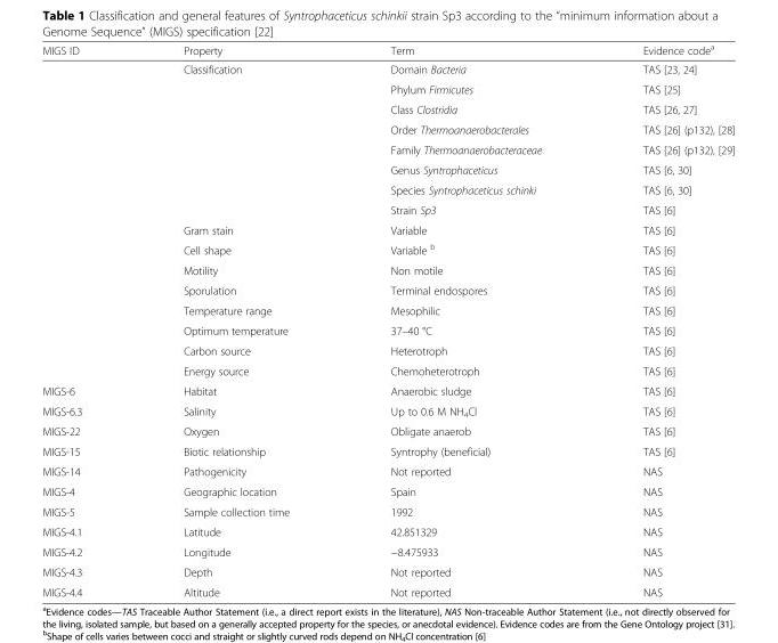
<table><thead><tr><td>MIGS ID</td><td>Property</td><td>Term</td><td>Evidence code<sup>a</sup></td></tr></thead><tbody><tr><td></td><td>Classification</td><td>Domain Bacteria</td><td>TAS [23, 24]</td></tr><tr><td></td><td></td><td>Phylum Firmicutes</td><td>TAS [25]</td></tr><tr><td></td><td></td><td>Class Clostridia</td><td>TAS [26, 27]</td></tr><tr><td></td><td></td><td>Order Thermoanaerobacterales</td><td>TAS [26] (p132), [28]</td></tr><tr><td></td><td></td><td>Family Thermoanaerobacteraceae</td><td>TAS [26] (p132), [29]</td></tr><tr><td></td><td></td><td>Genus Syntrophaceticus</td><td>TAS [6, 30]</td></tr><tr><td></td><td></td><td>Species Syntrophaceticus schinki</td><td>TAS [6, 30]</td></tr><tr><td></td><td></td><td>Strain Sp3</td><td>TAS [6]</td></tr><tr><td></td><td>Gram stain</td><td>Variable</td><td>TAS [6]</td></tr><tr><td></td><td>Cell shape</td><td>Variable <sup>b</sup></td><td>TAS [6]</td></tr><tr><td></td><td>Motility</td><td>Non motile</td><td>TAS [6]</td></tr><tr><td></td><td>Sporulation</td><td>Terminal endospores</td><td>TAS [6]</td></tr><tr><td></td><td>Temperature range</td><td>Mesophilic</td><td>TAS [6]</td></tr><tr><td></td><td>Optimum temperature</td><td>37–40 °C</td><td>TAS [6]</td></tr><tr><td></td><td>Carbon source</td><td>Heterotroph</td><td>TAS [6]</td></tr><tr><td></td><td>Energy source</td><td>Chemoheterotroph</td><td>TAS [6]</td></tr><tr><td>MIGS-6</td><td>Habitat</td><td>Anaerobic sludge</td><td>TAS [6]</td></tr><tr><td>MIGS-6.3</td><td>Salinity</td><td>Up to 0.6 M NH<sub>4</sub>Cl</td><td>TAS [6]</td></tr><tr><td>MIGS-22</td><td>Oxygen</td><td>Obligate anaerob</td><td>TAS [6]</td></tr><tr><td>MIGS-15</td><td>Biotic relationship</td><td>Syntrophy (beneficial)</td><td>TAS [6]</td></tr><tr><td>MIGS-14</td><td>Pathogenicity</td><td>Not reported</td><td>NAS</td></tr><tr><td>MIGS-4</td><td>Geographic location</td><td>Spain</td><td>NAS</td></tr><tr><td>MIGS-5</td><td>Sample collection time</td><td>1992</td><td>NAS</td></tr><tr><td>MIGS-4.1</td><td>Latitude</td><td>42.851329</td><td>NAS</td></tr><tr><td>MIGS-4.2</td><td>Longitude</td><td>−8.475933</td><td>NAS</td></tr><tr><td>MIGS-4.3</td><td>Depth</td><td>Not reported</td><td>NAS</td></tr><tr><td>MIGS-4.4</td><td>Altitude</td><td>Not reported</td><td>NAS</td></tr></tbody></table>